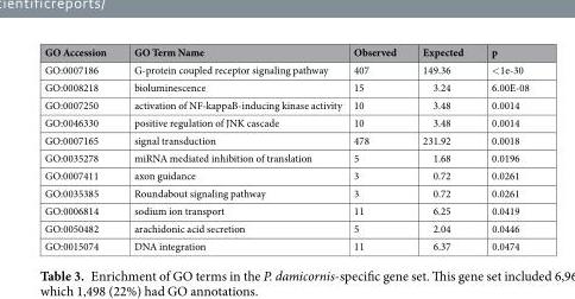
<table><thead><tr><td>GO Accession</td><td>GO Term Name</td><td>Observed</td><td>Expected</td><td>p</td></tr></thead><tbody><tr><td>GO:0007186</td><td>G-protein coupled receptor signaling pathway</td><td>407</td><td>149.36</td><td>&lt;1e-30</td></tr><tr><td>GO:0008218</td><td>bioluminescence</td><td>15</td><td>3.24</td><td>6.00E-08</td></tr><tr><td>GO:0007250</td><td>activation of NF-kappaB-inducing kinase activity</td><td>10</td><td>3.48</td><td>0.0014</td></tr><tr><td>GO:0046330</td><td>positive regulation of JNK cascade</td><td>10</td><td>3.48</td><td>0.0014</td></tr><tr><td>GO:0007165</td><td>signal transduction</td><td>478</td><td>231.92</td><td>0.0018</td></tr><tr><td>GO:0035278</td><td>miRNA mediated inhibition of translation</td><td>5</td><td>1.68</td><td>0.0196</td></tr><tr><td>GO:0007411</td><td>axon guidance</td><td>3</td><td>0.72</td><td>0.0261</td></tr><tr><td>GO:0035385</td><td>Roundabout signaling pathway</td><td>3</td><td>0.72</td><td>0.0261</td></tr><tr><td>GO:0006814</td><td>sodium ion transport</td><td>11</td><td>6.25</td><td>0.0419</td></tr><tr><td>GO:0050482</td><td>arachidonic acid secretion</td><td>5</td><td>2.04</td><td>0.0446</td></tr><tr><td>GO:0015074</td><td>DNA integration</td><td>11</td><td>6.37</td><td>0.0474</td></tr></tbody></table>